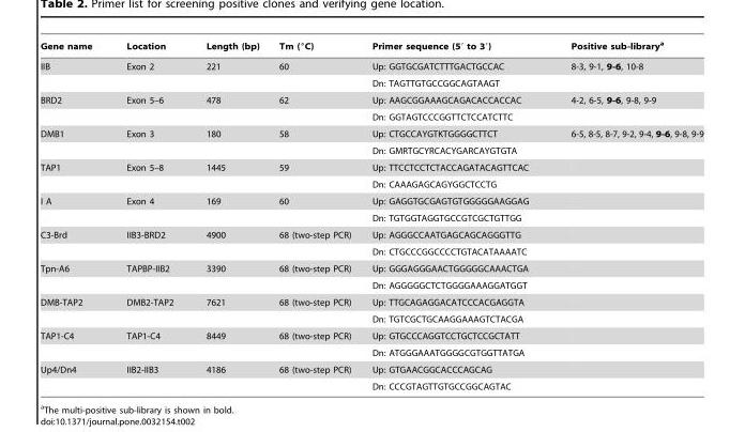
<table><thead><tr><td>Gene name</td><td>Location</td><td>Length (bp)</td><td>Tm (°C)</td><td>Primer sequence (5′ to 3′)</td><td>Positive sub-library<sup>a</sup></td></tr></thead><tbody><tr><td rowspan="2">IIB</td><td>Exon 2</td><td>221</td><td>60</td><td>Up: GGTGCGATCTTTGACTGCCAC</td><td>8-3, 9-1, 9-6, 10-8</td></tr><tr><td></td><td></td><td></td><td>Dn: TAGTTGTGCCGGCAGTAAGT</td><td></td></tr><tr><td rowspan="2">BRD2</td><td>Exon 5–6</td><td>478</td><td>62</td><td>Up: AAGCGGAAAGCAGACACCACCAC</td><td>4-2, 6-5, 9-6, 9-8, 9-9</td></tr><tr><td></td><td></td><td></td><td>Dn: GGTAGTCCCGGTTCTCCATCTTC</td><td></td></tr><tr><td rowspan="2">DMB1</td><td>Exon 3</td><td>180</td><td>58</td><td>Up: CTGCCAYGTKTGGGGCTTCT</td><td>6-5, 8-5, 8-7, 9-2, 9-4, 9-6, 9-8, 9-9</td></tr><tr><td></td><td></td><td></td><td>Dn: GMRTGCYRCACYGARCAYGTGTA</td><td></td></tr><tr><td rowspan="2">TAP1</td><td>Exon 5–8</td><td>1445</td><td>59</td><td>Up: TTCCTCCTCTACCAGATACAGTTCAC</td><td></td></tr><tr><td></td><td></td><td></td><td>Dn: CAAAGAGCAGYGGCTCCTG</td><td></td></tr><tr><td rowspan="2">I A</td><td>Exon 4</td><td>169</td><td>60</td><td>Up: GAGGTGCGAGTGTGGGGGAAGGAG</td><td></td></tr><tr><td></td><td></td><td></td><td>Dn: TGTGGTAGGTGCCGTCGCTGTTGG</td><td></td></tr><tr><td rowspan="2">C3-Brd</td><td>IIB3-BRD2</td><td>4900</td><td>68 (two-step PCR)</td><td>Up: AGGGCCAATGAGCAGCAGGGTTG</td><td></td></tr><tr><td></td><td></td><td></td><td>Dn: CTGCCCGGCCCCTGTACATAAAATC</td><td></td></tr><tr><td rowspan="2">Tpn-A6</td><td>TAPBP-IIB2</td><td>3390</td><td>68 (two-step PCR)</td><td>Up: GGGAGGGAACTGGGGGCAAACTGA</td><td></td></tr><tr><td></td><td></td><td></td><td>Dn: AGGGGGCTCTGGGGAAAGGATGGT</td><td></td></tr><tr><td rowspan="2">DMB-TAP2</td><td>DMB2-TAP2</td><td>7621</td><td>68 (two-step PCR)</td><td>Up: TTGCAGAGGACATCCCACGAGGTA</td><td></td></tr><tr><td></td><td></td><td></td><td>Dn: TGTCGCTGCAAGGAAAGTCTACGA</td><td></td></tr><tr><td rowspan="2">TAP1-C4</td><td>TAP1-C4</td><td>8449</td><td>68 (two-step PCR)</td><td>Up: GTGCCCAGGTCCTGCTCCGCTATT</td><td></td></tr><tr><td></td><td></td><td></td><td>Dn: ATGGGAAATGGGGCGTGGTTATGA</td><td></td></tr><tr><td rowspan="2">Up4/Dn4</td><td>IIB2-IIB3</td><td>4186</td><td>68 (two-step PCR)</td><td>Up: GTGAACGGCACCCAGCAG</td><td></td></tr><tr><td></td><td></td><td></td><td>Dn: CCCGTAGTTGTGCCGGCAGTAC</td><td></td></tr></tbody></table>